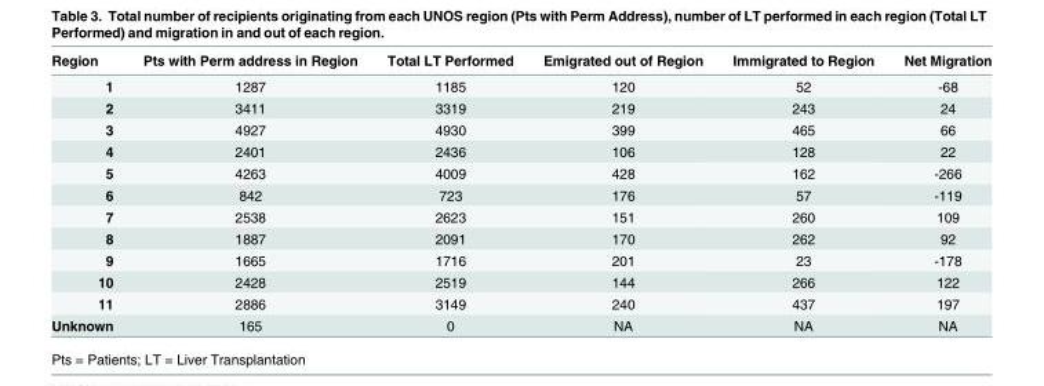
<table><thead><tr><td>Region</td><td>Pts with Perm address in Region</td><td>Total LT Performed</td><td>Emigrated out of Region</td><td>Immigrated to Region</td><td>Net Migration</td></tr></thead><tbody><tr><td>1</td><td>1287</td><td>1185</td><td>120</td><td>52</td><td>-68</td></tr><tr><td>2</td><td>3411</td><td>3319</td><td>219</td><td>243</td><td>24</td></tr><tr><td>3</td><td>4927</td><td>4930</td><td>399</td><td>465</td><td>66</td></tr><tr><td>4</td><td>2401</td><td>2436</td><td>106</td><td>128</td><td>22</td></tr><tr><td>5</td><td>4263</td><td>4009</td><td>428</td><td>162</td><td>-266</td></tr><tr><td>6</td><td>842</td><td>723</td><td>176</td><td>57</td><td>-119</td></tr><tr><td>7</td><td>2538</td><td>2623</td><td>151</td><td>260</td><td>109</td></tr><tr><td>8</td><td>1887</td><td>2091</td><td>170</td><td>262</td><td>92</td></tr><tr><td>9</td><td>1665</td><td>1716</td><td>201</td><td>23</td><td>-178</td></tr><tr><td>10</td><td>2428</td><td>2519</td><td>144</td><td>266</td><td>122</td></tr><tr><td>11</td><td>2886</td><td>3149</td><td>240</td><td>437</td><td>197</td></tr><tr><td>Unknown</td><td>165</td><td>0</td><td>NA</td><td>NA</td><td>NA</td></tr></tbody></table>